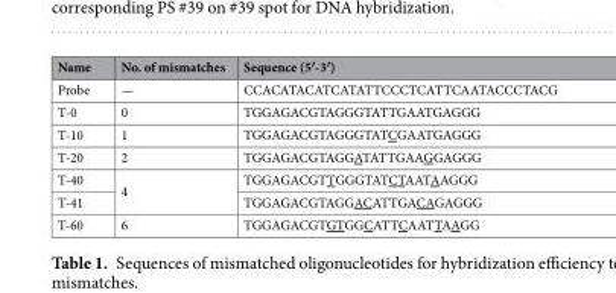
<table><thead><tr><td>Name</td><td>No. of mismatches</td><td>Sequence (5′-3′)</td></tr></thead><tbody><tr><td>Probe</td><td>—</td><td>CCACATACATCATATTCCCTCATTCAATACCCTACG</td></tr><tr><td>T-0</td><td>0</td><td>TGGAGACGTAGGGTATTGAATGAGGG</td></tr><tr><td>T-10</td><td>1</td><td>TGGAGACGTAGGGTATCGAATGAGGG</td></tr><tr><td>T-20</td><td>2</td><td>TGGAGACGTAGGATATTGAAGGAGGG</td></tr><tr><td>T-40</td><td rowspan="2">4</td><td>TGGAGACGTTGGGTATCTAATAAGGG</td></tr><tr><td>T-41</td><td>TGGAGACGTAGGACATTGACAGAGGG</td></tr><tr><td>T-60</td><td>6</td><td>TGGAGACGTGTGGCATTCAATTAAGG</td></tr></tbody></table>